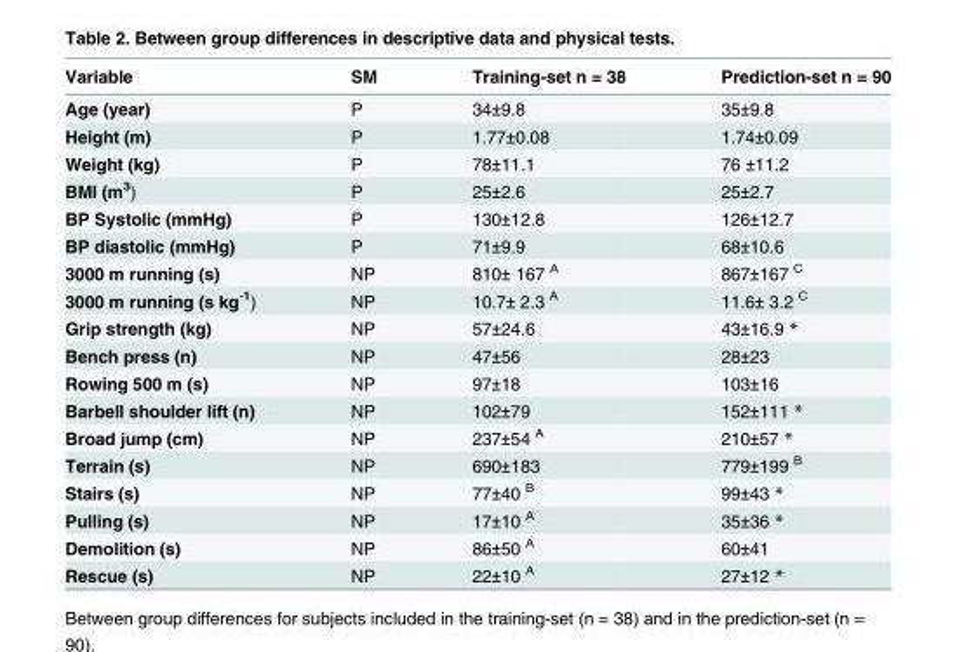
<table><thead><tr><td>Variable</td><td>SM</td><td>Training-set n = 38</td><td>Prediction-set n = 90</td></tr></thead><tbody><tr><td>Age (year)</td><td>P</td><td>34±9.8</td><td>35±9.8</td></tr><tr><td>Height (m)</td><td>P</td><td>1.77±0.08</td><td>1.74±0.09</td></tr><tr><td>Weight (kg)</td><td>P</td><td>78±11.1</td><td>76 ±11.2</td></tr><tr><td>BMI (m<sup>3</sup>)</td><td>P</td><td>25±2.6</td><td>25±2.7</td></tr><tr><td>BP Systolic (mmHg)</td><td>P</td><td>130±12.8</td><td>126±12.7</td></tr><tr><td>BP diastolic (mmHg)</td><td>P</td><td>71±9.9</td><td>68±10.6</td></tr><tr><td>3000 m running (s)</td><td>NP</td><td>810± 167 <sup>A</sup></td><td>867±167 <sup>C</sup></td></tr><tr><td>3000 m running (s∙kg<sup>-1</sup>)</td><td>NP</td><td>10.7± 2.3 <sup>A</sup></td><td>11.6± 3.2 <sup>C</sup></td></tr><tr><td>Grip strength (kg)</td><td>NP</td><td>57±24.6</td><td>43±16.9 *</td></tr><tr><td>Bench press (n)</td><td>NP</td><td>47±56</td><td>28±23</td></tr><tr><td>Rowing 500 m (s)</td><td>NP</td><td>97±18</td><td>103±16</td></tr><tr><td>Barbell shoulder lift (n)</td><td>NP</td><td>102±79</td><td>152±111 *</td></tr><tr><td>Broad jump (cm)</td><td>NP</td><td>237±54 <sup>A</sup></td><td>210±57 *</td></tr><tr><td>Terrain (s)</td><td>NP</td><td>690±183</td><td>779±199 <sup>B</sup></td></tr><tr><td>Stairs (s)</td><td>NP</td><td>77±40 <sup>B</sup></td><td>99±43 *</td></tr><tr><td>Pulling (s)</td><td>NP</td><td>17±10 <sup>A</sup></td><td>35±36 *</td></tr><tr><td>Demolition (s)</td><td>NP</td><td>86±50 <sup>A</sup></td><td>60±41</td></tr><tr><td>Rescue (s)</td><td>NP</td><td>22±10 <sup>A</sup></td><td>27±12 *</td></tr></tbody></table>